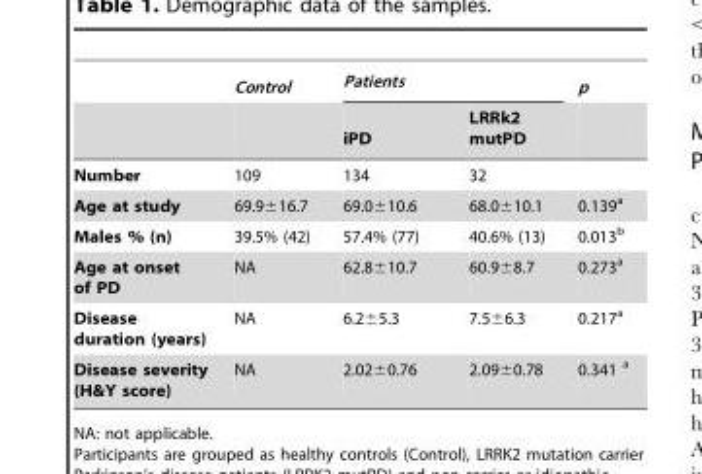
<table><thead><tr><td rowspan="2"></td><td rowspan="2">Control</td><td colspan="2">Patients</td><td rowspan="2">p</td></tr><tr><td>iPD</td><td>LRRk2 mutPD</td></tr></thead><tbody><tr><td>Number</td><td>109</td><td>134</td><td>32</td><td></td></tr><tr><td>Age at study</td><td>69.9±16.7</td><td>69.0±10.6</td><td>68.0±10.1</td><td>0.139<sup>a</sup></td></tr><tr><td>Males % (n)</td><td>39.5% (42)</td><td>57.4% (77)</td><td>40.6% (13)</td><td>0.013<sup>b</sup></td></tr><tr><td>Age at onset of PD</td><td>NA</td><td>62.8±10.7</td><td>60.9±8.7</td><td>0.273<sup>a</sup></td></tr><tr><td>Disease duration (years)</td><td>NA</td><td>6.2±5.3</td><td>7.5±6.3</td><td>0.217<sup>a</sup></td></tr><tr><td>Disease severity (H&amp;Y score)</td><td>NA</td><td>2.02±0.76</td><td>2.09±0.78</td><td>0.341 a</td></tr></tbody></table>